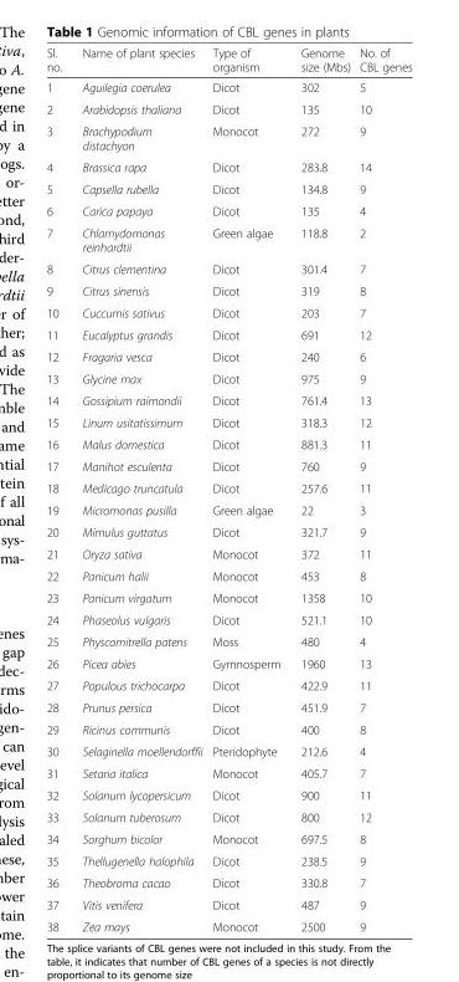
<table><thead><tr><td>Sl. no.</td><td>Name of plant species</td><td>Type of organism</td><td>Genome size (Mbs)</td><td>No. of CBL genes</td></tr></thead><tbody><tr><td>1</td><td>Aguilegia coerulea</td><td>Dicot</td><td>302</td><td>5</td></tr><tr><td>2</td><td>Arabidopsis thaliana</td><td>Dicot</td><td>135</td><td>10</td></tr><tr><td>3</td><td>Brachypodium distachyon</td><td>Monocot</td><td>272</td><td>9</td></tr><tr><td>4</td><td>Brassica rapa</td><td>Dicot</td><td>283.8</td><td>14</td></tr><tr><td>5</td><td>Capsella rubella</td><td>Dicot</td><td>134.8</td><td>9</td></tr><tr><td>6</td><td>Carica papaya</td><td>Dicot</td><td>135</td><td>4</td></tr><tr><td>7</td><td>Chlamydomonas reinhardtii</td><td>Green algae</td><td>118.8</td><td>2</td></tr><tr><td>8</td><td>Citrus clementina</td><td>Dicot</td><td>301.4</td><td>7</td></tr><tr><td>9</td><td>Citrus sinensis</td><td>Dicot</td><td>319</td><td>8</td></tr><tr><td>10</td><td>Cuccumis sativus</td><td>Dicot</td><td>203</td><td>7</td></tr><tr><td>11</td><td>Eucalyptus grandis</td><td>Dicot</td><td>691</td><td>12</td></tr><tr><td>12</td><td>Fragaria vesca</td><td>Dicot</td><td>240</td><td>6</td></tr><tr><td>13</td><td>Glycine max</td><td>Dicot</td><td>975</td><td>9</td></tr><tr><td>14</td><td>Gossipium raimondii</td><td>Dicot</td><td>761.4</td><td>13</td></tr><tr><td>15</td><td>Linum usitatissimum</td><td>Dicot</td><td>318.3</td><td>12</td></tr><tr><td>16</td><td>Malus domestica</td><td>Dicot</td><td>881.3</td><td>11</td></tr><tr><td>17</td><td>Manihot esculenta</td><td>Dicot</td><td>760</td><td>9</td></tr><tr><td>18</td><td>Medicago truncatula</td><td>Dicot</td><td>257.6</td><td>11</td></tr><tr><td>19</td><td>Micromonas pusilla</td><td>Green algae</td><td>22</td><td>3</td></tr><tr><td>20</td><td>Mimulus guttatus</td><td>Dicot</td><td>321.7</td><td>9</td></tr><tr><td>21</td><td>Oryza sativa</td><td>Monocot</td><td>372</td><td>11</td></tr><tr><td>22</td><td>Panicum halii</td><td>Monocot</td><td>453</td><td>8</td></tr><tr><td>23</td><td>Panicum virgatum</td><td>Monocot</td><td>1358</td><td>10</td></tr><tr><td>24</td><td>Phaseolus vulgaris</td><td>Dicot</td><td>521.1</td><td>10</td></tr><tr><td>25</td><td>Physcomitrella patens</td><td>Moss</td><td>480</td><td>4</td></tr><tr><td>26</td><td>Picea abies</td><td>Gymnosperm</td><td>1960</td><td>13</td></tr><tr><td>27</td><td>Populous trichocarpa</td><td>Dicot</td><td>422.9</td><td>11</td></tr><tr><td>28</td><td>Prunus persica</td><td>Dicot</td><td>451.9</td><td>7</td></tr><tr><td>29</td><td>Ricinus communis</td><td>Dicot</td><td>400</td><td>8</td></tr><tr><td>30</td><td>Selaginella moellendorffii</td><td>Pteridophyte</td><td>212.6</td><td>4</td></tr><tr><td>31</td><td>Setaria italica</td><td>Monocot</td><td>405.7</td><td>7</td></tr><tr><td>32</td><td>Solanum lycopersicum</td><td>Dicot</td><td>900</td><td>11</td></tr><tr><td>33</td><td>Solanum tuberosum</td><td>Dicot</td><td>800</td><td>12</td></tr><tr><td>34</td><td>Sorghum bicolor</td><td>Monocot</td><td>697.5</td><td>8</td></tr><tr><td>35</td><td>Thellugenella halophila</td><td>Dicot</td><td>238.5</td><td>9</td></tr><tr><td>36</td><td>Theobroma cacao</td><td>Dicot</td><td>330.8</td><td>7</td></tr><tr><td>37</td><td>Vitis venifera</td><td>Dicot</td><td>487</td><td>9</td></tr><tr><td>38</td><td>Zea mays</td><td>Monocot</td><td>2500</td><td>9</td></tr></tbody></table>